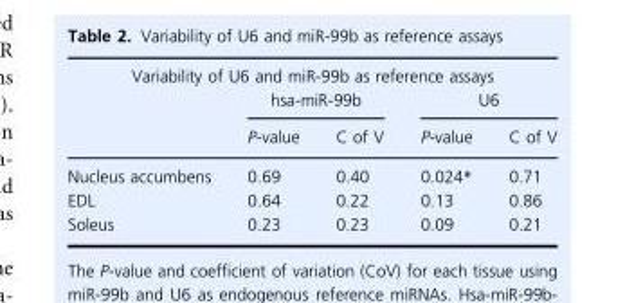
<table><thead><tr><td colspan="5">Variability of U6 and miR-99b as reference assays</td></tr><tr><td rowspan="2"></td><td colspan="2">hsa-miR-99b</td><td colspan="2">U6</td></tr><tr><td>P-value</td><td>C of V</td><td>P-value</td><td>C of V</td></tr></thead><tbody><tr><td>Nucleus accumbens</td><td>0.69</td><td>0.40</td><td>0.024*</td><td>0.71</td></tr><tr><td>EDL</td><td>0.64</td><td>0.22</td><td>0.13</td><td>0.86</td></tr><tr><td>Soleus</td><td>0.23</td><td>0.23</td><td>0.09</td><td>0.21</td></tr></tbody></table>